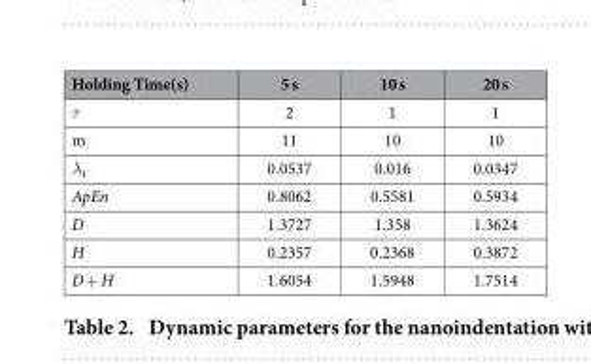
<table><thead><tr><td>Holding Time(s)</td><td>5 s</td><td>10 s</td><td>20 s</td></tr></thead><tbody><tr><td>τ</td><td>2</td><td>1</td><td>1</td></tr><tr><td>m</td><td>11</td><td>10</td><td>10</td></tr><tr><td>λ<sub>1</sub></td><td>0.0537</td><td>0.016</td><td>0.0347</td></tr><tr><td>ApEn</td><td>0.8062</td><td>0.5581</td><td>0.5934</td></tr><tr><td>D</td><td>1.3727</td><td>1.358</td><td>1.3624</td></tr><tr><td>H</td><td>0.2357</td><td>0.2368</td><td>0.3872</td></tr><tr><td>D + H</td><td>1.6054</td><td>1.5948</td><td>1.7514</td></tr></tbody></table>